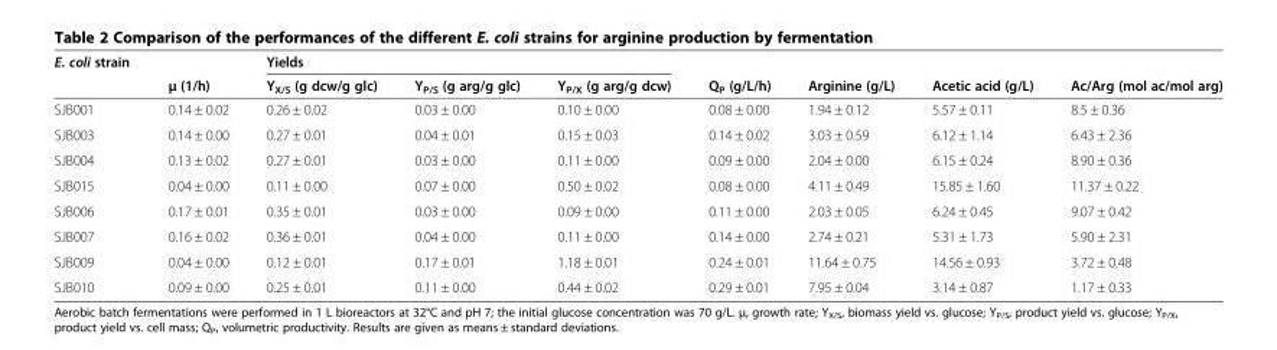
<table><thead><tr><td rowspan="2">E. coli strain</td><td rowspan="2">μ (1/h)</td><td colspan="3">Yields</td><td rowspan="2">Q<sub>P</sub> (g/L/h)</td><td rowspan="2">Arginine (g/L)</td><td rowspan="2">Acetic acid (g/L)</td><td rowspan="2">Ac/Arg (mol ac/mol arg)</td></tr><tr><td>Y<sub>X/S</sub> (g dcw/g glc)</td><td>Y<sub>P/S</sub> (g arg/g glc)</td><td>Y<sub>P/X</sub> (g arg/g dcw)</td></tr></thead><tbody><tr><td>SJB001</td><td>0.14 ± 0.02</td><td>0.26 ± 0.02</td><td>0.03 ± 0.00</td><td>0.10 ± 0.00</td><td>0.08 ± 0.00</td><td>1.94 ± 0.12</td><td>5.57 ± 0.11</td><td>8.5 ± 0.36</td></tr><tr><td>SJB003</td><td>0.14 ± 0.00</td><td>0.27 ± 0.01</td><td>0.04 ± 0.01</td><td>0.15 ± 0.03</td><td>0.14 ± 0.02</td><td>3.03 ± 0.59</td><td>6.12 ± 1.14</td><td>6.43 ± 2.36</td></tr><tr><td>SJB004</td><td>0.13 ± 0.02</td><td>0.27 ± 0.01</td><td>0.03 ± 0.00</td><td>0.11 ± 0.00</td><td>0.09 ± 0.00</td><td>2.04 ± 0.00</td><td>6.15 ± 0.24</td><td>8.90 ± 0.36</td></tr><tr><td>SJB015</td><td>0.04 ± 0.00</td><td>0.11 ± 0.00</td><td>0.07 ± 0.00</td><td>0.50 ± 0.02</td><td>0.08 ± 0.00</td><td>4.11 ± 0.49</td><td>15.85 ± 1.60</td><td>11.37 ± 0.22</td></tr><tr><td>SJB006</td><td>0.17 ± 0.01</td><td>0.35 ± 0.01</td><td>0.03 ± 0.00</td><td>0.09 ± 0.00</td><td>0.11 ± 0.00</td><td>2.03 ± 0.05</td><td>6.24 ± 0.45</td><td>9.07 ± 0.42</td></tr><tr><td>SJB007</td><td>0.16 ± 0.02</td><td>0.36 ± 0.01</td><td>0.04 ± 0.00</td><td>0.11 ± 0.00</td><td>0.14 ± 0.00</td><td>2.74 ± 0.21</td><td>5.31 ± 1.73</td><td>5.90 ± 2.31</td></tr><tr><td>SJB009</td><td>0.04 ± 0.00</td><td>0.12 ± 0.01</td><td>0.17 ± 0.01</td><td>1.18 ± 0.01</td><td>0.24 ± 0.01</td><td>11.64 ± 0.75</td><td>14.56 ± 0.93</td><td>3.72 ± 0.48</td></tr><tr><td>SJB010</td><td>0.09 ± 0.00</td><td>0.25 ± 0.01</td><td>0.11 ± 0.00</td><td>0.44 ± 0.02</td><td>0.29 ± 0.01</td><td>7.95 ± 0.04</td><td>3.14 ± 0.87</td><td>1.17 ± 0.33</td></tr></tbody></table>